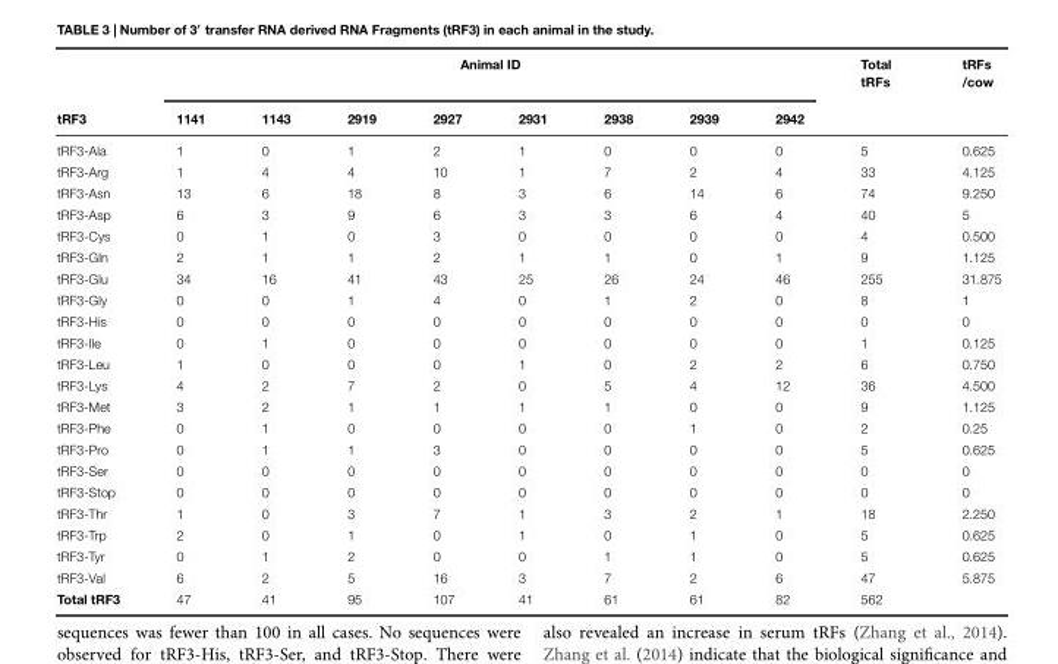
<table><thead><tr><td rowspan="2">tRF3</td><td colspan="8">Animal ID</td><td rowspan="2">Total tRFs</td><td rowspan="2">tRFs /cow</td></tr><tr><td>1141</td><td>1143</td><td>2919</td><td>2927</td><td>2931</td><td>2938</td><td>2939</td><td>2942</td></tr></thead><tbody><tr><td>tRF3-Ala</td><td>1</td><td>0</td><td>1</td><td>2</td><td>1</td><td>0</td><td>0</td><td>0</td><td>5</td><td>0.625</td></tr><tr><td>tRF3-Arg</td><td>1</td><td>4</td><td>4</td><td>10</td><td>1</td><td>7</td><td>2</td><td>4</td><td>33</td><td>4.125</td></tr><tr><td>tRF3-Asn</td><td>13</td><td>6</td><td>18</td><td>8</td><td>3</td><td>6</td><td>14</td><td>6</td><td>74</td><td>9.250</td></tr><tr><td>tRF3-Asp</td><td>6</td><td>3</td><td>9</td><td>6</td><td>3</td><td>3</td><td>6</td><td>4</td><td>40</td><td>5</td></tr><tr><td>tRF3-Cys</td><td>0</td><td>1</td><td>0</td><td>3</td><td>0</td><td>0</td><td>0</td><td>0</td><td>4</td><td>0.500</td></tr><tr><td>tRF3-Gln</td><td>2</td><td>1</td><td>1</td><td>2</td><td>1</td><td>1</td><td>0</td><td>1</td><td>9</td><td>1.125</td></tr><tr><td>tRF3-Glu</td><td>34</td><td>16</td><td>41</td><td>43</td><td>25</td><td>26</td><td>24</td><td>46</td><td>255</td><td>31.875</td></tr><tr><td>tRF3-Gly</td><td>0</td><td>0</td><td>1</td><td>4</td><td>0</td><td>1</td><td>2</td><td>0</td><td>8</td><td>1</td></tr><tr><td>tRF3-His</td><td>0</td><td>0</td><td>0</td><td>0</td><td>0</td><td>0</td><td>0</td><td>0</td><td>0</td><td>0</td></tr><tr><td>tRF3-Ile</td><td>0</td><td>1</td><td>0</td><td>0</td><td>0</td><td>0</td><td>0</td><td>0</td><td>1</td><td>0.125</td></tr><tr><td>tRF3-Leu</td><td>1</td><td>0</td><td>0</td><td>0</td><td>1</td><td>0</td><td>2</td><td>2</td><td>6</td><td>0.750</td></tr><tr><td>tRF3-Lys</td><td>4</td><td>2</td><td>7</td><td>2</td><td>0</td><td>5</td><td>4</td><td>12</td><td>36</td><td>4.500</td></tr><tr><td>tRF3-Met</td><td>3</td><td>2</td><td>1</td><td>1</td><td>1</td><td>1</td><td>0</td><td>0</td><td>9</td><td>1.125</td></tr><tr><td>tRF3-Phe</td><td>0</td><td>1</td><td>0</td><td>0</td><td>0</td><td>0</td><td>1</td><td>0</td><td>2</td><td>0.25</td></tr><tr><td>tRF3-Pro</td><td>0</td><td>1</td><td>1</td><td>3</td><td>0</td><td>0</td><td>0</td><td>0</td><td>5</td><td>0.625</td></tr><tr><td>tRF3-Ser</td><td>0</td><td>0</td><td>0</td><td>0</td><td>0</td><td>0</td><td>0</td><td>0</td><td>0</td><td>0</td></tr><tr><td>tRF3-Stop</td><td>0</td><td>0</td><td>0</td><td>0</td><td>0</td><td>0</td><td>0</td><td>0</td><td>0</td><td>0</td></tr><tr><td>tRF3-Thr</td><td>1</td><td>0</td><td>3</td><td>7</td><td>1</td><td>3</td><td>2</td><td>1</td><td>18</td><td>2.250</td></tr><tr><td>tRF3-Trp</td><td>2</td><td>0</td><td>1</td><td>0</td><td>1</td><td>0</td><td>1</td><td>0</td><td>5</td><td>0.625</td></tr><tr><td>tRF3-Tyr</td><td>0</td><td>1</td><td>2</td><td>0</td><td>0</td><td>1</td><td>1</td><td>0</td><td>5</td><td>0.625</td></tr><tr><td>tRF3-Val</td><td>6</td><td>2</td><td>5</td><td>16</td><td>3</td><td>7</td><td>2</td><td>6</td><td>47</td><td>5.875</td></tr><tr><td>Total tRF3</td><td>47</td><td>41</td><td>95</td><td>107</td><td>41</td><td>61</td><td>61</td><td>82</td><td>562</td><td></td></tr></tbody></table>